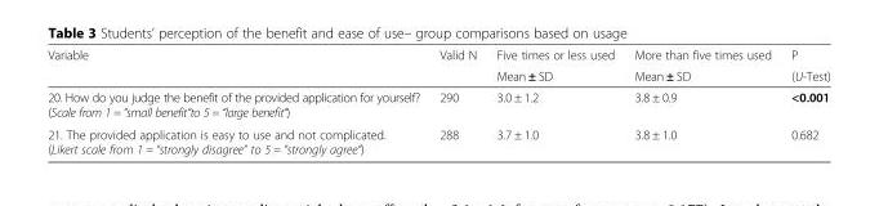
<table><thead><tr><td rowspan="2">Variable</td><td rowspan="2">Valid N</td><td rowspan="2">Five times or less used Mean ± SD</td><td rowspan="2">More than five times used Mean ± SD</td><td rowspan="2">P (U-Test)</td></tr><tr></tr></thead><tbody><tr><td>20. How do you judge the benefit of the provided application for yourself? (Scale from 1 = “small benefit“to 5 = “large benefit“)</td><td>290</td><td>3.0 ± 1.2</td><td>3.8 ± 0.9</td><td>&lt;0.001</td></tr><tr><td>21. The provided application is easy to use and not complicated. (Likert scale from 1 = “strongly disagree” to 5 = “strongly agree“)</td><td>288</td><td>3.7 ± 1.0</td><td>3.8 ± 1.0</td><td>0.682</td></tr></tbody></table>